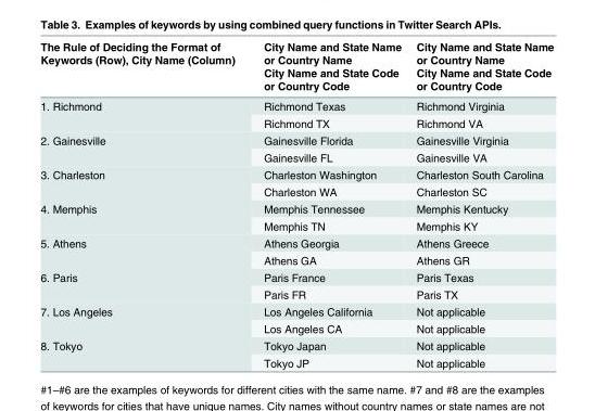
<table><thead><tr><td rowspan="2">The Rule of Deciding the Format of Keywords (Row), City Name (Column)</td><td rowspan="2">City Name and State Name or Country Name City Name and State Code or Country Code</td><td rowspan="2">City Name and State Name or Country Name City Name and State Code or Country Code</td></tr><tr></tr></thead><tbody><tr><td rowspan="2">1. Richmond</td><td>Richmond Texas</td><td>Richmond Virginia</td></tr><tr><td>Richmond TX</td><td>Richmond VA</td></tr><tr><td rowspan="2">2. Gainesville</td><td>Gainesville Florida</td><td>Gainesville Virginia</td></tr><tr><td>Gainesville FL</td><td>Gainesville VA</td></tr><tr><td rowspan="2">3. Charleston</td><td>Charleston Washington</td><td>Charleston South Carolina</td></tr><tr><td>Charleston WA</td><td>Charleston SC</td></tr><tr><td rowspan="2">4. Memphis</td><td>Memphis Tennessee</td><td>Memphis Kentucky</td></tr><tr><td>Memphis TN</td><td>Memphis KY</td></tr><tr><td rowspan="2">5. Athens</td><td>Athens Georgia</td><td>Athens Greece</td></tr><tr><td>Athens GA</td><td>Athens GR</td></tr><tr><td rowspan="2">6. Paris</td><td>Paris France</td><td>Paris Texas</td></tr><tr><td>Paris FR</td><td>Paris TX</td></tr><tr><td rowspan="2">7. Los Angeles</td><td>Los Angeles California</td><td>Not applicable</td></tr><tr><td>Los Angeles CA</td><td>Not applicable</td></tr><tr><td rowspan="2">8. Tokyo</td><td>Tokyo Japan</td><td>Not applicable</td></tr><tr><td>Tokyo JP</td><td>Not applicable</td></tr></tbody></table>